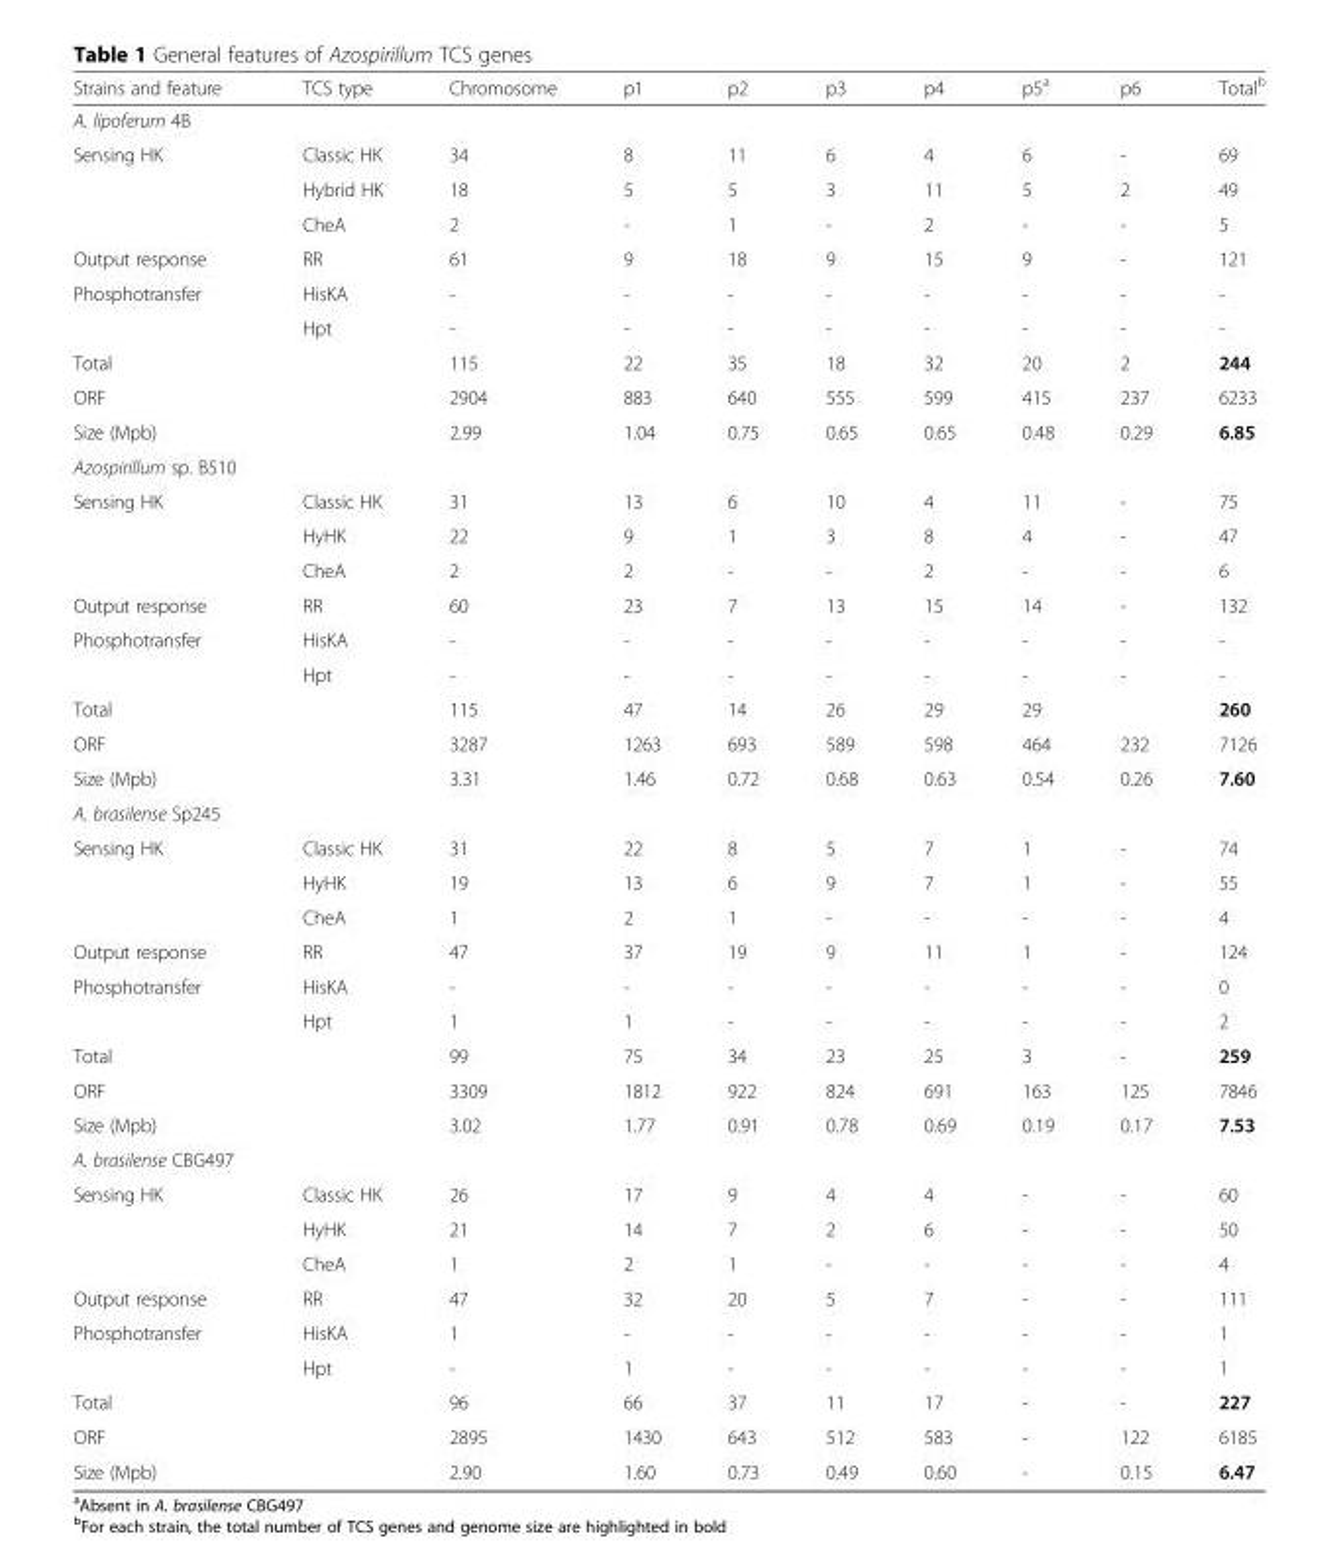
<table><thead><tr><td>Strains and feature</td><td>TCS type</td><td>Chromosome</td><td>p1</td><td>p2</td><td>p3</td><td>p4</td><td>p5<sup>a</sup></td><td>p6</td><td>Total<sup>b</sup></td></tr></thead><tbody><tr><td colspan="10">A. lipoferum 4B</td></tr><tr><td rowspan="3">Sensing HK</td><td>Classic HK</td><td>34</td><td>8</td><td>11</td><td>6</td><td>4</td><td>6</td><td>-</td><td>69</td></tr><tr><td>Hybrid HK</td><td>18</td><td>5</td><td>5</td><td>3</td><td>11</td><td>5</td><td>2</td><td>49</td></tr><tr><td>CheA</td><td>2</td><td>-</td><td>1</td><td>-</td><td>2</td><td>-</td><td>-</td><td>5</td></tr><tr><td>Output response</td><td>RR</td><td>61</td><td>9</td><td>18</td><td>9</td><td>15</td><td>9</td><td>-</td><td>121</td></tr><tr><td rowspan="2">Phosphotransfer</td><td>HisKA</td><td>-</td><td>-</td><td>-</td><td>-</td><td>-</td><td>-</td><td>-</td><td>-</td></tr><tr><td>Hpt</td><td>-</td><td>-</td><td>-</td><td>-</td><td>-</td><td>-</td><td>-</td><td>-</td></tr><tr><td>Total</td><td></td><td>115</td><td>22</td><td>35</td><td>18</td><td>32</td><td>20</td><td>2</td><td>244</td></tr><tr><td>ORF</td><td></td><td>2904</td><td>883</td><td>640</td><td>555</td><td>599</td><td>415</td><td>237</td><td>6233</td></tr><tr><td>Size (Mpb)</td><td></td><td>2.99</td><td>1.04</td><td>0.75</td><td>0.65</td><td>0.65</td><td>0.48</td><td>0.29</td><td>6.85</td></tr><tr><td colspan="10">Azospirillum sp. B510</td></tr><tr><td rowspan="3">Sensing HK</td><td>Classic HK</td><td>31</td><td>13</td><td>6</td><td>10</td><td>4</td><td>11</td><td>-</td><td>75</td></tr><tr><td>HyHK</td><td>22</td><td>9</td><td>1</td><td>3</td><td>8</td><td>4</td><td>-</td><td>47</td></tr><tr><td>CheA</td><td>2</td><td>2</td><td>-</td><td>-</td><td>2</td><td>-</td><td>-</td><td>6</td></tr><tr><td>Output response</td><td>RR</td><td>60</td><td>23</td><td>7</td><td>13</td><td>15</td><td>14</td><td>-</td><td>132</td></tr><tr><td rowspan="2">Phosphotransfer</td><td>HisKA</td><td>-</td><td>-</td><td>-</td><td>-</td><td>-</td><td>-</td><td>-</td><td>-</td></tr><tr><td>Hpt</td><td>-</td><td>-</td><td>-</td><td>-</td><td>-</td><td>-</td><td>-</td><td>-</td></tr><tr><td>Total</td><td></td><td>115</td><td>47</td><td>14</td><td>26</td><td>29</td><td>29</td><td></td><td>260</td></tr><tr><td>ORF</td><td></td><td>3287</td><td>1263</td><td>693</td><td>589</td><td>598</td><td>464</td><td>232</td><td>7126</td></tr><tr><td>Size (Mpb)</td><td></td><td>3.31</td><td>1.46</td><td>0.72</td><td>0.68</td><td>0.63</td><td>0.54</td><td>0.26</td><td>7.60</td></tr><tr><td colspan="10">A. brasilense Sp245</td></tr><tr><td rowspan="3">Sensing HK</td><td>Classic HK</td><td>31</td><td>22</td><td>8</td><td>5</td><td>7</td><td>1</td><td>-</td><td>74</td></tr><tr><td>HyHK</td><td>19</td><td>13</td><td>6</td><td>9</td><td>7</td><td>1</td><td>-</td><td>55</td></tr><tr><td>CheA</td><td>1</td><td>2</td><td>1</td><td>-</td><td>-</td><td>-</td><td>-</td><td>4</td></tr><tr><td>Output response</td><td>RR</td><td>47</td><td>37</td><td>19</td><td>9</td><td>11</td><td>1</td><td>-</td><td>124</td></tr><tr><td rowspan="2">Phosphotransfer</td><td>HisKA</td><td>-</td><td>-</td><td>-</td><td>-</td><td>-</td><td>-</td><td>-</td><td>0</td></tr><tr><td>Hpt</td><td>1</td><td>1</td><td>-</td><td>-</td><td>-</td><td>-</td><td>-</td><td>2</td></tr><tr><td>Total</td><td></td><td>99</td><td>75</td><td>34</td><td>23</td><td>25</td><td>3</td><td>-</td><td>259</td></tr><tr><td>ORF</td><td></td><td>3309</td><td>1812</td><td>922</td><td>824</td><td>691</td><td>163</td><td>125</td><td>7846</td></tr><tr><td>Size (Mpb)</td><td></td><td>3.02</td><td>1.77</td><td>0.91</td><td>0.78</td><td>0.69</td><td>0.19</td><td>0.17</td><td>7.53</td></tr><tr><td colspan="10">A. brasilense CBG497</td></tr><tr><td rowspan="3">Sensing HK</td><td>Classic HK</td><td>26</td><td>17</td><td>9</td><td>4</td><td>4</td><td>-</td><td>-</td><td>60</td></tr><tr><td>HyHK</td><td>21</td><td>14</td><td>7</td><td>2</td><td>6</td><td>-</td><td>-</td><td>50</td></tr><tr><td>CheA</td><td>1</td><td>2</td><td>1</td><td>-</td><td>-</td><td>-</td><td>-</td><td>4</td></tr><tr><td>Output response</td><td>RR</td><td>47</td><td>32</td><td>20</td><td>5</td><td>7</td><td>-</td><td>-</td><td>111</td></tr><tr><td rowspan="2">Phosphotransfer</td><td>HisKA</td><td>1</td><td>-</td><td>-</td><td>-</td><td>-</td><td>-</td><td>-</td><td>1</td></tr><tr><td>Hpt</td><td>-</td><td>1</td><td>-</td><td>-</td><td>-</td><td>-</td><td>-</td><td>1</td></tr><tr><td>Total</td><td></td><td>96</td><td>66</td><td>37</td><td>11</td><td>17</td><td>-</td><td>-</td><td>227</td></tr><tr><td>ORF</td><td></td><td>2895</td><td>1430</td><td>643</td><td>512</td><td>583</td><td>-</td><td>122</td><td>6185</td></tr><tr><td>Size (Mpb)</td><td></td><td>2.90</td><td>1.60</td><td>0.73</td><td>0.49</td><td>0.60</td><td>-</td><td>0.15</td><td>6.47</td></tr></tbody></table>